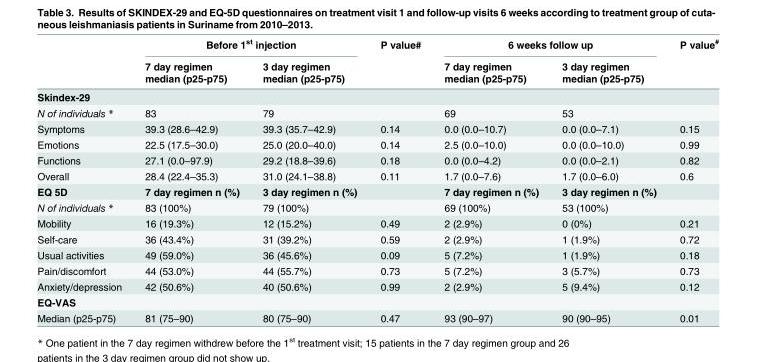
<table><thead><tr><td rowspan="2"></td><td colspan="2">Before 1<sup>st</sup> injection</td><td rowspan="2">P value#</td><td colspan="2">6 weeks follow up</td><td rowspan="2">P value<sup>#</sup></td></tr><tr><td>7 day regimen median (p25-p75)</td><td>3 day regimen median (p25-p75)</td><td>7 day regimen median (p25-p75)</td><td>3 day regimen median (p25-p75)</td></tr></thead><tbody><tr><td colspan="7">Skindex-29</td></tr><tr><td>N of individuals *</td><td>83</td><td>79</td><td></td><td>69</td><td>53</td><td></td></tr><tr><td>Symptoms</td><td>39.3 (28.6–42.9)</td><td>39.3 (35.7–42.9)</td><td>0.14</td><td>0.0 (0.0–10.7)</td><td>0.0 (0.0–7.1)</td><td>0.15</td></tr><tr><td>Emotions</td><td>22.5 (17.5–30.0)</td><td>25.0 (20.0–40.0)</td><td>0.14</td><td>2.5 (0.0–10.0)</td><td>0.0 (0.0–10.0)</td><td>0.99</td></tr><tr><td>Functions</td><td>27.1 (0.0–97.9)</td><td>29.2 (18.8–39.6)</td><td>0.18</td><td>0.0 (0.0–4.2)</td><td>0.0 (0.0–2.1)</td><td>0.82</td></tr><tr><td>Overall</td><td>28.4 (22.4–35.3)</td><td>31.0 (24.1–38.8)</td><td>0.11</td><td>1.7 (0.0–7.6)</td><td>1.7 (0.0–6.0)</td><td>0.6</td></tr><tr><td>EQ 5D</td><td>7 day regimen n (%)</td><td>3 day regimen n (%)</td><td></td><td>7 day regimen n (%)</td><td>3 day regimen n (%)</td><td></td></tr><tr><td>N of individuals *</td><td>83 (100%)</td><td>79 (100%)</td><td></td><td>69 (100%)</td><td>53 (100%)</td><td></td></tr><tr><td>Mobility</td><td>16 (19.3%)</td><td>12 (15.2%)</td><td>0.49</td><td>2 (2.9%)</td><td>0 (0%)</td><td>0.21</td></tr><tr><td>Self-care</td><td>36 (43.4%)</td><td>31 (39.2%)</td><td>0.59</td><td>2 (2.9%)</td><td>1 (1.9%)</td><td>0.72</td></tr><tr><td>Usual activities</td><td>49 (59.0%)</td><td>36 (45.6%)</td><td>0.09</td><td>5 (7.2%)</td><td>1 (1.9%)</td><td>0.18</td></tr><tr><td>Pain/discomfort</td><td>44 (53.0%)</td><td>44 (55.7%)</td><td>0.73</td><td>5 (7.2%)</td><td>3 (5.7%)</td><td>0.73</td></tr><tr><td>Anxiety/depression</td><td>42 (50.6%)</td><td>40 (50.6%)</td><td>0.99</td><td>2 (2.9%)</td><td>5 (9.4%)</td><td>0.12</td></tr><tr><td colspan="7">EQ-VAS</td></tr><tr><td>Median (p25-p75)</td><td>81 (75–90)</td><td>80 (75–90)</td><td>0.47</td><td>93 (90–97)</td><td>90 (90–95)</td><td>0.01</td></tr></tbody></table>